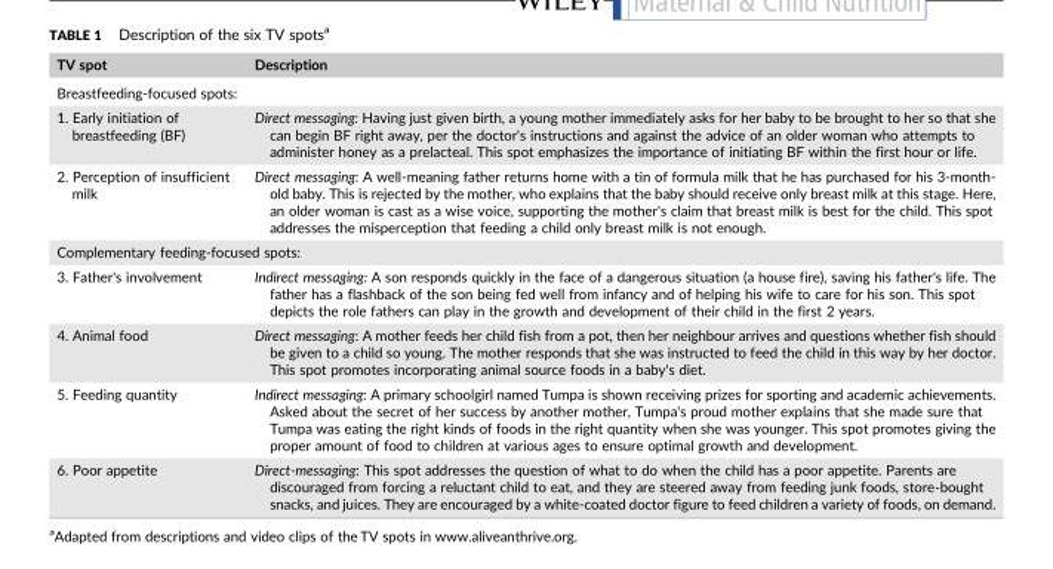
<table><thead><tr><td>TV spot</td><td>Description</td></tr></thead><tbody><tr><td colspan="2">Breastfeeding‐focused spots:</td></tr><tr><td>1. Early initiation of breastfeeding (BF)</td><td>Direct messaging: Having just given birth, a young mother immediately asks for her baby to be brought to her so that she can begin BF right away, per the doctor&#x27;s instructions and against the advice of an older woman who attempts to administer honey as a prelacteal. This spot emphasizes the importance of initiating BF within the first hour or life.</td></tr><tr><td>2. Perception of insufficient milk</td><td>Direct messaging: A well‐meaning father returns home with a tin of formula milk that he has purchased for his 3‐month‐ old baby. This is rejected by the mother, who explains that the baby should receive only breast milk at this stage. Here, an older woman is cast as a wise voice, supporting the mother&#x27;s claim that breast milk is best for the child. This spot addresses the misperception that feeding a child only breast milk is not enough.</td></tr><tr><td colspan="2">Complementary feeding‐focused spots:</td></tr><tr><td>3. Father&#x27;s involvement</td><td>Indirect messaging: A son responds quickly in the face of a dangerous situation (a house fire), saving his father&#x27;s life. The father has a flashback of the son being fed well from infancy and of helping his wife to care for his son. This spot depicts the role fathers can play in the growth and development of their child in the first 2 years.</td></tr><tr><td>4. Animal food</td><td>Direct messaging: A mother feeds her child fish from a pot, then her neighbour arrives and questions whether fish should be given to a child so young. The mother responds that she was instructed to feed the child in this way by her doctor. This spot promotes incorporating animal source foods in a baby&#x27;s diet.</td></tr><tr><td>5. Feeding quantity</td><td>Indirect messaging: A primary schoolgirl named Tumpa is shown receiving prizes for sporting and academic achievements. Asked about the secret of her success by another mother, Tumpa&#x27;s proud mother explains that she made sure that Tumpa was eating the right kinds of foods in the right quantity when she was younger. This spot promotes giving the proper amount of food to children at various ages to ensure optimal growth and development.</td></tr><tr><td>6. Poor appetite</td><td>Direct‐messaging: This spot addresses the question of what to do when the child has a poor appetite. Parents are discouraged from forcing a reluctant child to eat, and they are steered away from feeding junk foods, store‐bought snacks, and juices. They are encouraged by a white‐coated doctor figure to feed children a variety of foods, on demand.</td></tr></tbody></table>